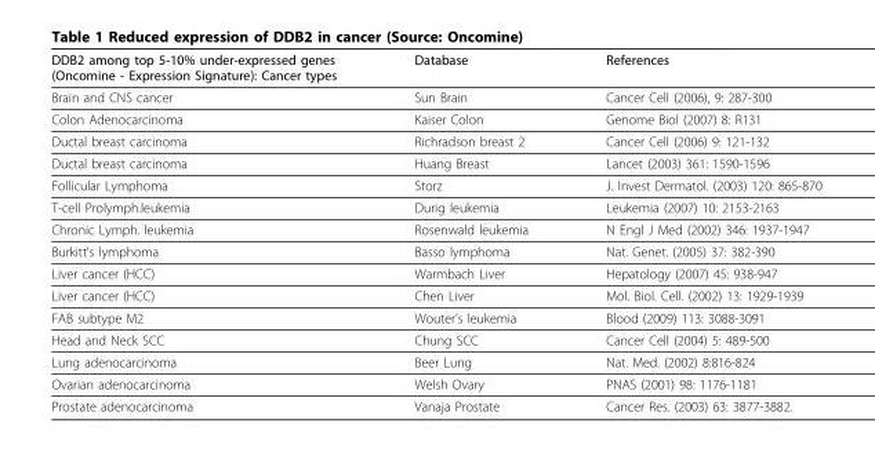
<table><thead><tr><td>DDB2 among top 5-10% under-expressed genes (Oncomine - Expression Signature): Cancer types</td><td>Database</td><td>References</td></tr></thead><tbody><tr><td>Brain and CNS cancer</td><td>Sun Brain</td><td>Cancer Cell (2006), 9: 287-300</td></tr><tr><td>Colon Adenocarcinoma</td><td>Kaiser Colon</td><td>Genome Biol (2007) 8: R131</td></tr><tr><td>Ductal breast carcinoma</td><td>Richradson breast 2</td><td>Cancer Cell (2006) 9: 121-132</td></tr><tr><td>Ductal breast carcinoma</td><td>Huang Breast</td><td>Lancet (2003) 361: 1590-1596</td></tr><tr><td>Follicular Lymphoma</td><td>Storz</td><td>J. Invest Dermatol. (2003) 120: 865-870</td></tr><tr><td>T-cell Prolymph.leukemia</td><td>Durig leukemia</td><td>Leukemia (2007) 10: 2153-2163</td></tr><tr><td>Chronic Lymph. leukemia</td><td>Rosenwald leukemia</td><td>N Engl J Med (2002) 346: 1937-1947</td></tr><tr><td>Burkitt’s lymphoma</td><td>Basso lymphoma</td><td>Nat. Genet. (2005) 37: 382-390</td></tr><tr><td>Liver cancer (HCC)</td><td>Warmbach Liver</td><td>Hepatology (2007) 45: 938-947</td></tr><tr><td>Liver cancer (HCC)</td><td>Chen Liver</td><td>Mol. Biol. Cell. (2002) 13: 1929-1939</td></tr><tr><td>FAB subtype M2</td><td>Wouter’s leukemia</td><td>Blood (2009) 113: 3088-3091</td></tr><tr><td>Head and Neck SCC</td><td>Chung SCC</td><td>Cancer Cell (2004) 5: 489-500</td></tr><tr><td>Lung adenocarcinoma</td><td>Beer Lung</td><td>Nat. Med. (2002) 8:816-824</td></tr><tr><td>Ovarian adenocarcinoma</td><td>Welsh Ovary</td><td>PNAS (2001) 98: 1176-1181</td></tr><tr><td>Prostate adenocarcinoma</td><td>Vanaja Prostate</td><td>Cancer Res. (2003) 63: 3877-3882.</td></tr></tbody></table>